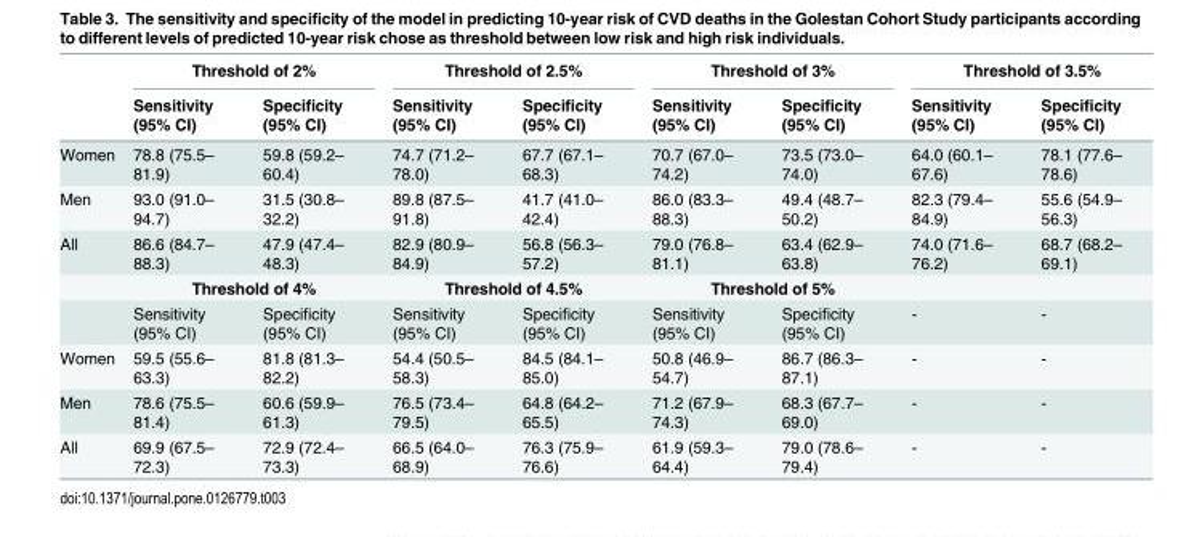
<table><thead><tr><td rowspan="2"></td><td colspan="2">Threshold of 2%</td><td colspan="2">Threshold of 2.5%</td><td colspan="2">Threshold of 3%</td><td colspan="2">Threshold of 3.5%</td></tr><tr><td>Sensitivity (95% CI)</td><td>Specificity (95% CI)</td><td>Sensitivity (95% CI)</td><td>Specificity (95% CI)</td><td>Sensitivity (95% CI)</td><td>Specificity (95% CI)</td><td>Sensitivity (95% CI)</td><td>Specificity (95% CI)</td></tr></thead><tbody><tr><td>Women</td><td>78.8 (75.5– 81.9)</td><td>59.8 (59.2– 60.4)</td><td>74.7 (71.2– 78.0)</td><td>67.7 (67.1– 68.3)</td><td>70.7 (67.0– 74.2)</td><td>73.5 (73.0– 74.0)</td><td>64.0 (60.1– 67.6)</td><td>78.1 (77.6– 78.6)</td></tr><tr><td>Men</td><td>93.0 (91.0– 94.7)</td><td>31.5 (30.8– 32.2)</td><td>89.8 (87.5– 91.8)</td><td>41.7 (41.0– 42.4)</td><td>86.0 (83.3– 88.3)</td><td>49.4 (48.7– 50.2)</td><td>82.3 (79.4– 84.9)</td><td>55.6 (54.9– 56.3)</td></tr><tr><td rowspan="3">All</td><td>86.6 (84.7– 88.3)</td><td>47.9 (47.4– 48.3)</td><td>82.9 (80.9– 84.9)</td><td>56.8 (56.3– 57.2)</td><td>79.0 (76.8– 81.1)</td><td>63.4 (62.9– 63.8)</td><td>74.0 (71.6– 76.2)</td><td>68.7 (68.2– 69.1)</td></tr><tr><td colspan="2">Threshold of 4%</td><td colspan="2">Threshold of 4.5%</td><td colspan="2">Threshold of 5%</td><td></td><td></td></tr><tr><td>Sensitivity (95% CI)</td><td>Specificity (95% CI)</td><td>Sensitivity (95% CI)</td><td>Specificity (95% CI)</td><td>Sensitivity (95% CI)</td><td>Specificity (95% CI)</td><td>-</td><td>-</td></tr><tr><td>Women</td><td>59.5 (55.6– 63.3)</td><td>81.8 (81.3– 82.2)</td><td>54.4 (50.5– 58.3)</td><td>84.5 (84.1– 85.0)</td><td>50.8 (46.9– 54.7)</td><td>86.7 (86.3– 87.1)</td><td>-</td><td>-</td></tr><tr><td>Men</td><td>78.6 (75.5– 81.4)</td><td>60.6 (59.9– 61.3)</td><td>76.5 (73.4– 79.5)</td><td>64.8 (64.2– 65.5)</td><td>71.2 (67.9– 74.3)</td><td>68.3 (67.7– 69.0)</td><td>-</td><td>-</td></tr><tr><td>All</td><td>69.9 (67.5– 72.3)</td><td>72.9 (72.4– 73.3)</td><td>66.5 (64.0– 68.9)</td><td>76.3 (75.9– 76.6)</td><td>61.9 (59.3– 64.4)</td><td>79.0 (78.6– 79.4)</td><td>-</td><td>-</td></tr></tbody></table>